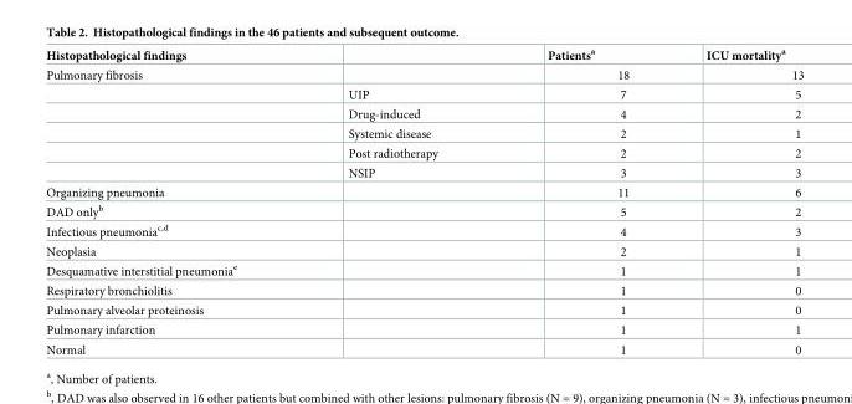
<table><thead><tr><td>Histopathological findings</td><td></td><td>Patients<sup>a</sup></td><td>ICU mortality<sup>a</sup></td></tr></thead><tbody><tr><td rowspan="6">Pulmonary fibrosis</td><td></td><td>18</td><td>13</td></tr><tr><td>UIP</td><td>7</td><td>5</td></tr><tr><td>Drug-induced</td><td>4</td><td>2</td></tr><tr><td>Systemic disease</td><td>2</td><td>1</td></tr><tr><td>Post radiotherapy</td><td>2</td><td>2</td></tr><tr><td>NSIP</td><td>3</td><td>3</td></tr><tr><td>Organizing pneumonia</td><td></td><td>11</td><td>6</td></tr><tr><td>DAD only<sup>b</sup></td><td></td><td>5</td><td>2</td></tr><tr><td>Infectious pneumonia<sup>c,d</sup></td><td></td><td>4</td><td>3</td></tr><tr><td>Neoplasia</td><td></td><td>2</td><td>1</td></tr><tr><td>Desquamative interstitial pneumonia<sup>e</sup></td><td></td><td>1</td><td>1</td></tr><tr><td>Respiratory bronchiolitis</td><td></td><td>1</td><td>0</td></tr><tr><td>Pulmonary alveolar proteinosis</td><td></td><td>1</td><td>0</td></tr><tr><td>Pulmonary infarction</td><td></td><td>1</td><td>1</td></tr><tr><td>Normal</td><td></td><td>1</td><td>0</td></tr></tbody></table>